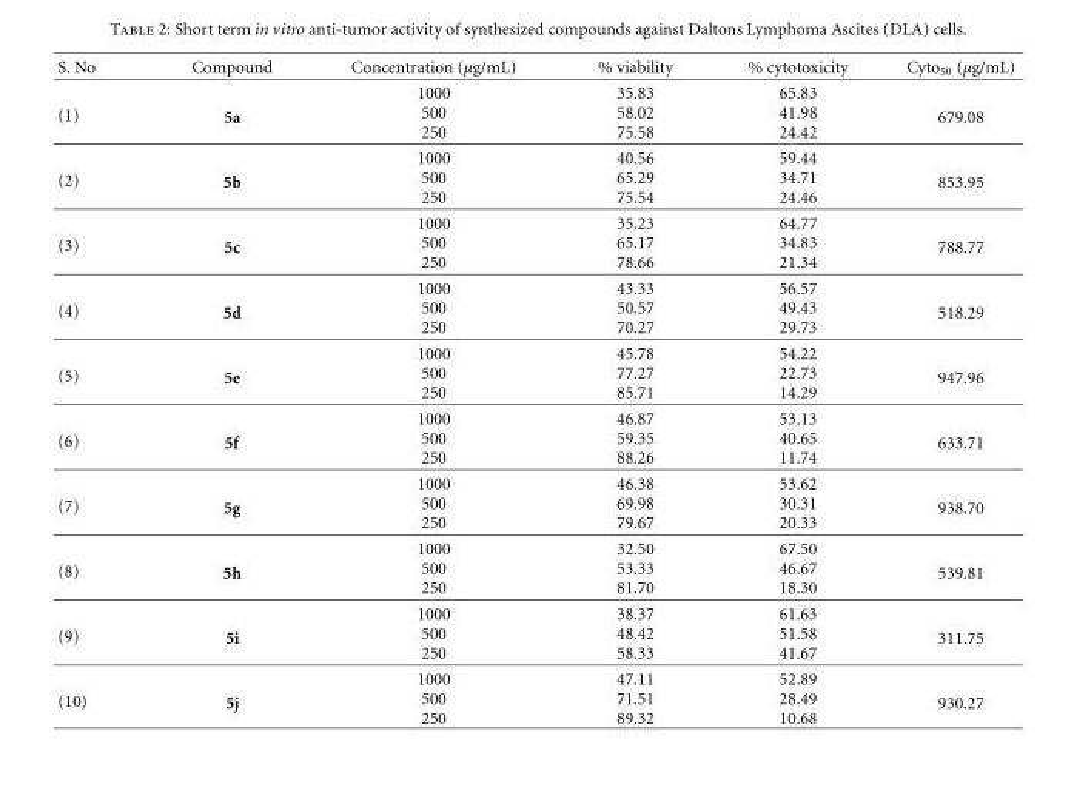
<table><thead><tr><td>S. No</td><td>Compound</td><td>Concentration (μg/mL)</td><td>% viability</td><td>% cytotoxicity</td><td>Cyto<sub>50</sub> (μg/mL)</td></tr></thead><tbody><tr><td rowspan="3">(1)</td><td rowspan="3">5a</td><td>1000</td><td>35.83</td><td>65.83</td><td rowspan="3">679.08</td></tr><tr><td>500</td><td>58.02</td><td>41.98</td></tr><tr><td>250</td><td>75.58</td><td>24.42</td></tr><tr><td rowspan="3">(2)</td><td rowspan="3">5b</td><td>1000</td><td>40.56</td><td>59.44</td><td rowspan="3">853.95</td></tr><tr><td>500</td><td>65.29</td><td>34.71</td></tr><tr><td>250</td><td>75.54</td><td>24.46</td></tr><tr><td rowspan="3">(3)</td><td rowspan="3">5c</td><td>1000</td><td>35.23</td><td>64.77</td><td rowspan="3">788.77</td></tr><tr><td>500</td><td>65.17</td><td>34.83</td></tr><tr><td>250</td><td>78.66</td><td>21.34</td></tr><tr><td rowspan="3">(4)</td><td rowspan="3">5d</td><td>1000</td><td>43.33</td><td>56.57</td><td rowspan="3">518.29</td></tr><tr><td>500</td><td>50.57</td><td>49.43</td></tr><tr><td>250</td><td>70.27</td><td>29.73</td></tr><tr><td rowspan="3">(5)</td><td rowspan="3">5e</td><td>1000</td><td>45.78</td><td>54.22</td><td rowspan="3">947.96</td></tr><tr><td>500</td><td>77.27</td><td>22.73</td></tr><tr><td>250</td><td>85.71</td><td>14.29</td></tr><tr><td rowspan="3">(6)</td><td rowspan="3">5f</td><td>1000</td><td>46.87</td><td>53.13</td><td rowspan="3">633.71</td></tr><tr><td>500</td><td>59.35</td><td>40.65</td></tr><tr><td>250</td><td>88.26</td><td>11.74</td></tr><tr><td rowspan="3">(7)</td><td rowspan="3">5g</td><td>1000</td><td>46.38</td><td>53.62</td><td rowspan="3">938.70</td></tr><tr><td>500</td><td>69.98</td><td>30.31</td></tr><tr><td>250</td><td>79.67</td><td>20.33</td></tr><tr><td rowspan="3">(8)</td><td rowspan="3">5h</td><td>1000</td><td>32.50</td><td>67.50</td><td rowspan="3">539.81</td></tr><tr><td>500</td><td>53.33</td><td>46.67</td></tr><tr><td>250</td><td>81.70</td><td>18.30</td></tr><tr><td rowspan="3">(9)</td><td rowspan="3">5i</td><td>1000</td><td>38.37</td><td>61.63</td><td rowspan="3">311.75</td></tr><tr><td>500</td><td>48.42</td><td>51.58</td></tr><tr><td>250</td><td>58.33</td><td>41.67</td></tr><tr><td rowspan="3">(10)</td><td rowspan="3">5j</td><td>1000</td><td>47.11</td><td>52.89</td><td rowspan="3">930.27</td></tr><tr><td>500</td><td>71.51</td><td>28.49</td></tr><tr><td>250</td><td>89.32</td><td>10.68</td></tr></tbody></table>